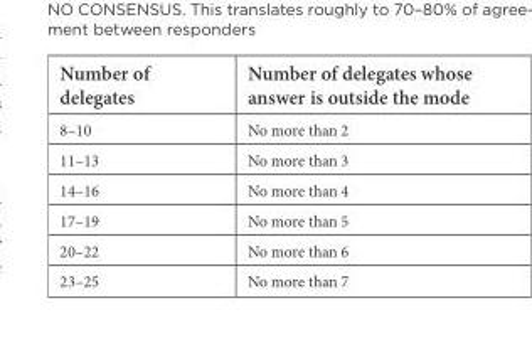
<table><thead><tr><td>Number of delegates</td><td>Number of delegates whose answer is outside the mode</td></tr></thead><tbody><tr><td>8–10</td><td>No more than 2</td></tr><tr><td>11–13</td><td>No more than 3</td></tr><tr><td>14–16</td><td>No more than 4</td></tr><tr><td>17–19</td><td>No more than 5</td></tr><tr><td>20–22</td><td>No more than 6</td></tr><tr><td>23–25</td><td>No more than 7</td></tr></tbody></table>